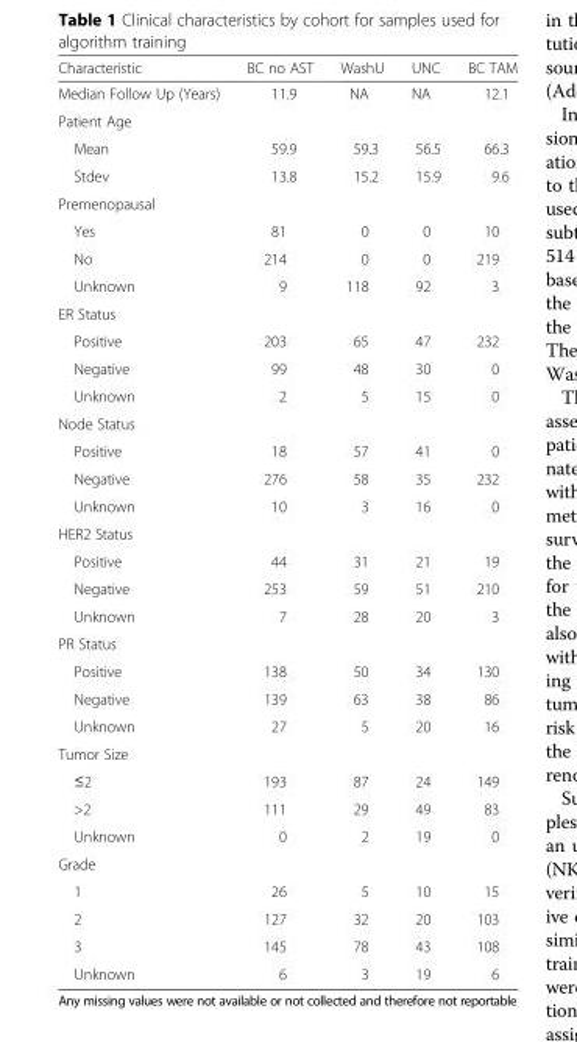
<table><thead><tr><td>Characteristic</td><td>BC no AST</td><td>WashU</td><td>UNC</td><td>BC TAM</td></tr></thead><tbody><tr><td>Median Follow Up (Years)</td><td>11.9</td><td>NA</td><td>NA</td><td>12.1</td></tr><tr><td colspan="5">Patient Age</td></tr><tr><td>Mean</td><td>59.9</td><td>59.3</td><td>56.5</td><td>66.3</td></tr><tr><td>Stdev</td><td>13.8</td><td>15.2</td><td>15.9</td><td>9.6</td></tr><tr><td colspan="5">Premenopausal</td></tr><tr><td>Yes</td><td>81</td><td>0</td><td>0</td><td>10</td></tr><tr><td>No</td><td>214</td><td>0</td><td>0</td><td>219</td></tr><tr><td>Unknown</td><td>9</td><td>118</td><td>92</td><td>3</td></tr><tr><td colspan="5">ER Status</td></tr><tr><td>Positive</td><td>203</td><td>65</td><td>47</td><td>232</td></tr><tr><td>Negative</td><td>99</td><td>48</td><td>30</td><td>0</td></tr><tr><td>Unknown</td><td>2</td><td>5</td><td>15</td><td>0</td></tr><tr><td colspan="5">Node Status</td></tr><tr><td>Positive</td><td>18</td><td>57</td><td>41</td><td>0</td></tr><tr><td>Negative</td><td>276</td><td>58</td><td>35</td><td>232</td></tr><tr><td>Unknown</td><td>10</td><td>3</td><td>16</td><td>0</td></tr><tr><td colspan="5">HER2 Status</td></tr><tr><td>Positive</td><td>44</td><td>31</td><td>21</td><td>19</td></tr><tr><td>Negative</td><td>253</td><td>59</td><td>51</td><td>210</td></tr><tr><td>Unknown</td><td>7</td><td>28</td><td>20</td><td>3</td></tr><tr><td colspan="5">PR Status</td></tr><tr><td>Positive</td><td>138</td><td>50</td><td>34</td><td>130</td></tr><tr><td>Negative</td><td>139</td><td>63</td><td>38</td><td>86</td></tr><tr><td>Unknown</td><td>27</td><td>5</td><td>20</td><td>16</td></tr><tr><td colspan="5">Tumor Size</td></tr><tr><td>≤2</td><td>193</td><td>87</td><td>24</td><td>149</td></tr><tr><td>&gt;2</td><td>111</td><td>29</td><td>49</td><td>83</td></tr><tr><td>Unknown</td><td>0</td><td>2</td><td>19</td><td>0</td></tr><tr><td colspan="5">Grade</td></tr><tr><td>1</td><td>26</td><td>5</td><td>10</td><td>15</td></tr><tr><td>2</td><td>127</td><td>32</td><td>20</td><td>103</td></tr><tr><td>3</td><td>145</td><td>78</td><td>43</td><td>108</td></tr><tr><td>Unknown</td><td>6</td><td>3</td><td>19</td><td>6</td></tr></tbody></table>